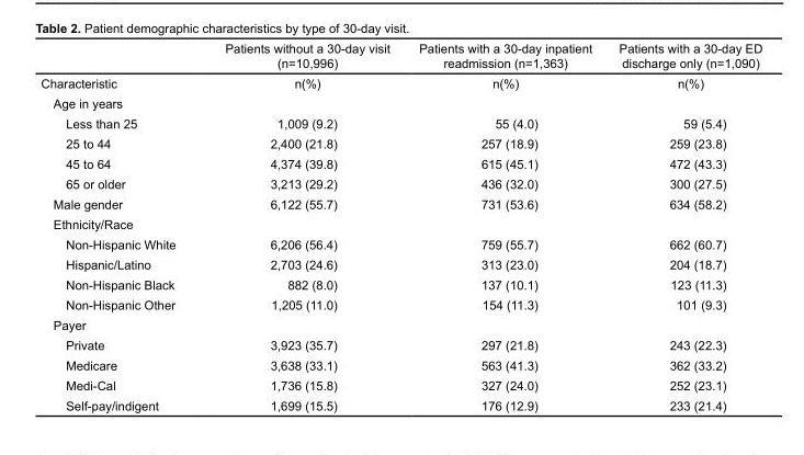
<table><thead><tr><td></td><td>Patients without a 30-day visit (n=10,996)</td><td>Patients with a 30-day inpatient readmission (n=1,363)</td><td>Patients with a 30-day ED discharge only (n=1,090)</td></tr></thead><tbody><tr><td>Characteristic</td><td>n(%)</td><td>n(%)</td><td>n(%)</td></tr><tr><td colspan="4">Age in years</td></tr><tr><td>Less than 25</td><td>1,009 (9.2)</td><td>55 (4.0)</td><td>59 (5.4)</td></tr><tr><td>25 to 44</td><td>2,400 (21.8)</td><td>257 (18.9)</td><td>259 (23.8)</td></tr><tr><td>45 to 64</td><td>4,374 (39.8)</td><td>615 (45.1)</td><td>472 (43.3)</td></tr><tr><td>65 or older</td><td>3,213 (29.2)</td><td>436 (32.0)</td><td>300 (27.5)</td></tr><tr><td>Male gender</td><td>6,122 (55.7)</td><td>731 (53.6)</td><td>634 (58.2)</td></tr><tr><td colspan="4">Ethnicity/Race</td></tr><tr><td>Non-Hispanic White</td><td>6,206 (56.4)</td><td>759 (55.7)</td><td>662 (60.7)</td></tr><tr><td>Hispanic/Latino</td><td>2,703 (24.6)</td><td>313 (23.0)</td><td>204 (18.7)</td></tr><tr><td>Non-Hispanic Black</td><td>882 (8.0)</td><td>137 (10.1)</td><td>123 (11.3)</td></tr><tr><td>Non-Hispanic Other</td><td>1,205 (11.0)</td><td>154 (11.3)</td><td>101 (9.3)</td></tr><tr><td colspan="4">Payer</td></tr><tr><td>Private</td><td>3,923 (35.7)</td><td>297 (21.8)</td><td>243 (22.3)</td></tr><tr><td>Medicare</td><td>3,638 (33.1)</td><td>563 (41.3)</td><td>362 (33.2)</td></tr><tr><td>Medi-Cal</td><td>1,736 (15.8)</td><td>327 (24.0)</td><td>252 (23.1)</td></tr><tr><td>Self-pay/indigent</td><td>1,699 (15.5)</td><td>176 (12.9)</td><td>233 (21.4)</td></tr></tbody></table>